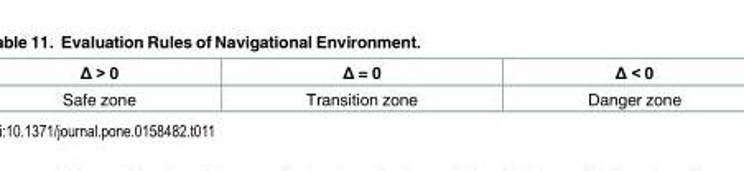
<table><thead><tr><td>Δ &gt; 0</td><td>Δ = 0</td><td>Δ &lt; 0</td></tr></thead><tbody><tr><td>Safe zone</td><td>Transition zone</td><td>Danger zone</td></tr></tbody></table>